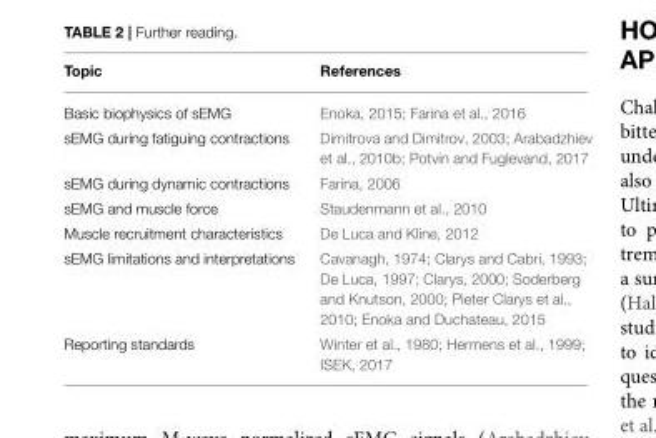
<table><thead><tr><td>Topic</td><td>References</td></tr></thead><tbody><tr><td>Basic biophysics of sEMG</td><td>Enoka, 2015; Farina et al., 2016</td></tr><tr><td>sEMG during fatiguing contractions</td><td>Dimitrova and Dimitrov, 2003; Arabadzhiev et al., 2010b; Potvin and Fuglevand, 2017</td></tr><tr><td>sEMG during dynamic contractions</td><td>Farina, 2006</td></tr><tr><td>sEMG and muscle force</td><td>Staudenmann et al., 2010</td></tr><tr><td>Muscle recruitment characteristics</td><td>De Luca and Kline, 2012</td></tr><tr><td>sEMG limitations and interpretations</td><td>Cavanagh, 1974; Clarys and Cabri, 1993; De Luca, 1997; Clarys, 2000; Soderberg and Knutson, 2000; Pieter Clarys et al., 2010; Enoka and Duchateau, 2015</td></tr><tr><td>Reporting standards</td><td>Winter et al., 1980; Hermens et al., 1999; ISEK, 2017</td></tr></tbody></table>